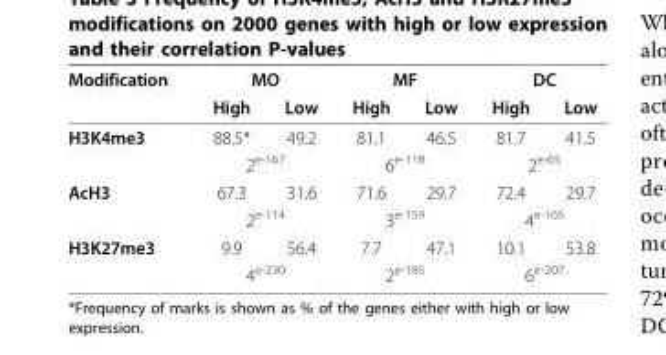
<table><thead><tr><td rowspan="2">Modification</td><td colspan="2">MO</td><td colspan="2">MF</td><td colspan="2">DC</td></tr><tr><td>High</td><td>Low</td><td>High</td><td>Low</td><td>High</td><td>Low</td></tr></thead><tbody><tr><td rowspan="2">H3K4me3</td><td>88.5*</td><td>49.2</td><td>81.1</td><td>46.5</td><td>81.7</td><td>41.5</td></tr><tr><td colspan="2">2<sup>e-167</sup></td><td colspan="2">6<sup>e-118</sup></td><td colspan="2">2<sup>e-65</sup></td></tr><tr><td rowspan="2">AcH3</td><td>67.3</td><td>31.6</td><td>71.6</td><td>29.7</td><td>72.4</td><td>29.7</td></tr><tr><td colspan="2">2<sup>e-114</sup></td><td colspan="2">3<sup>e-159</sup></td><td colspan="2">4<sup>e-165</sup></td></tr><tr><td rowspan="2">H3K27me3</td><td>9.9</td><td>56.4</td><td>7.7</td><td>47.1</td><td>10.1</td><td>53.8</td></tr><tr><td colspan="2">4<sup>e-230</sup></td><td colspan="2">2<sup>e-185</sup></td><td colspan="2">6<sup>e-207</sup></td></tr></tbody></table>